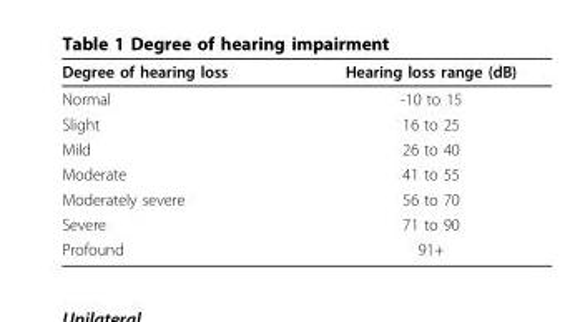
<table><thead><tr><td>Degree of hearing loss</td><td>Hearing loss range (dB)</td></tr></thead><tbody><tr><td>Normal</td><td>-10 to 15</td></tr><tr><td>Slight</td><td>16 to 25</td></tr><tr><td>Mild</td><td>26 to 40</td></tr><tr><td>Moderate</td><td>41 to 55</td></tr><tr><td>Moderately severe</td><td>56 to 70</td></tr><tr><td>Severe</td><td>71 to 90</td></tr><tr><td>Profound</td><td>91+</td></tr></tbody></table>